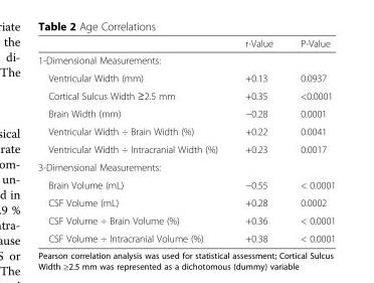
<table><thead><tr><td></td><td>r-Value</td><td>P-Value</td></tr></thead><tbody><tr><td colspan="3">1-Dimensional Measurements:</td></tr><tr><td>Ventricular Width (mm)</td><td>+0.13</td><td>0.0937</td></tr><tr><td>Cortical Sulcus Width ≥2.5 mm</td><td>+0.35</td><td>&lt;0.0001</td></tr><tr><td>Brain Width (mm)</td><td>−0.28</td><td>0.0001</td></tr><tr><td>Ventricular Width ÷ Brain Width (%)</td><td>+0.22</td><td>0.0041</td></tr><tr><td>Ventricular Width ÷ Intracranial Width (%)</td><td>+0.23</td><td>0.0017</td></tr><tr><td colspan="3">3-Dimensional Measurements:</td></tr><tr><td>Brain Volume (mL)</td><td>−0.55</td><td>&lt; 0.0001</td></tr><tr><td>CSF Volume (mL)</td><td>+0.28</td><td>0.0002</td></tr><tr><td>CSF Volume ÷ Brain Volume (%)</td><td>+0.36</td><td>&lt; 0.0001</td></tr><tr><td>CSF Volume ÷ Intracranial Volume (%)</td><td>+0.38</td><td>&lt; 0.0001</td></tr></tbody></table>